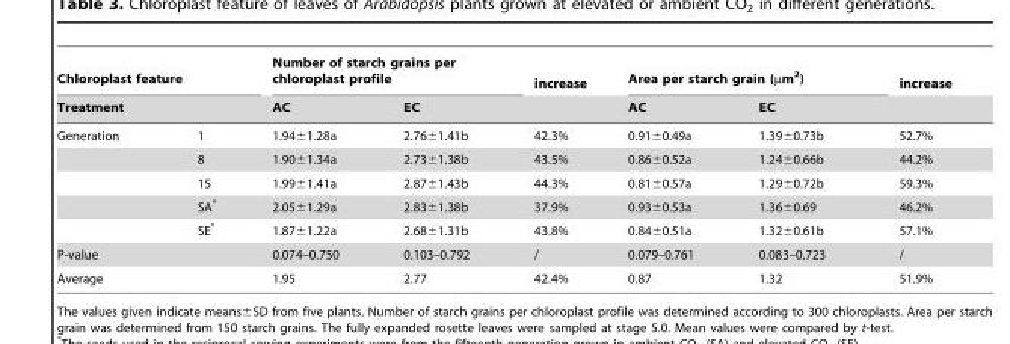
<table><thead><tr><td rowspan="2" colspan="2">Chloroplast feature Treatment</td><td colspan="2">Number of starch grains per chloroplast profile</td><td rowspan="3">increase 42.3%</td><td colspan="2">Area per starch grain (µm<sup>2</sup>)</td><td rowspan="3">increase 52.7%</td></tr><tr><td rowspan="2">AC 1.94±1.28a</td><td rowspan="2">EC 2.76±1.41b</td><td rowspan="2">AC 0.91±0.49a</td><td rowspan="2">EC 1.39±0.73b</td></tr><tr><td>Generation</td><td>1</td></tr></thead><tbody><tr><td></td><td>8</td><td>1.90±1.34a</td><td>2.73±1.38b</td><td>43.5%</td><td>0.86±0.52a</td><td>1.24±0.66b</td><td>44.2%</td></tr><tr><td></td><td>15</td><td>1.99±1.41a</td><td>2.87±1.43b</td><td>44.3%</td><td>0.81±0.57a</td><td>1.29±0.72b</td><td>59.3%</td></tr><tr><td></td><td>SA*</td><td>2.05±1.29a</td><td>2.83±1.38b</td><td>37.9%</td><td>0.93±0.53a</td><td>1.36±0.69</td><td>46.2%</td></tr><tr><td></td><td>SE*</td><td>1.87±1.22a</td><td>2.68±1.31b</td><td>43.8%</td><td>0.84±0.51a</td><td>1.32±0.61b</td><td>57.1%</td></tr><tr><td colspan="2">P-value</td><td>0.074–0.750</td><td>0.103–0.792</td><td>/</td><td>0.079–0.761</td><td>0.083–0.723</td><td>/</td></tr><tr><td colspan="2">Average</td><td>1.95</td><td>2.77</td><td>42.4%</td><td>0.87</td><td>1.32</td><td>51.9%</td></tr></tbody></table>